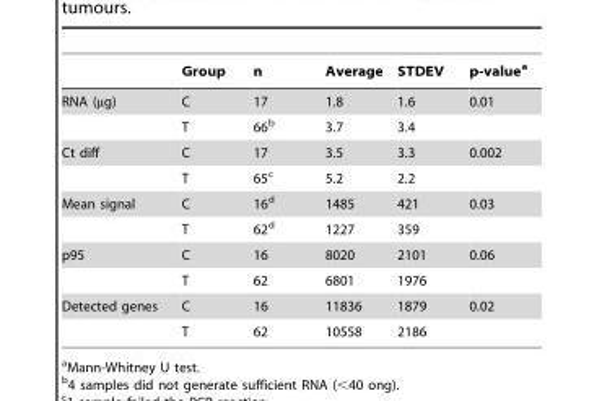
<table><thead><tr><td></td><td>Group</td><td>n</td><td>Average</td><td>STDEV</td><td>p-value<sup>a</sup></td></tr></thead><tbody><tr><td rowspan="2">RNA (µg)</td><td>C</td><td>17</td><td>1.8</td><td>1.6</td><td>0.01</td></tr><tr><td>T</td><td>66<sup>b</sup></td><td>3.7</td><td>3.4</td><td></td></tr><tr><td rowspan="2">Ct diff</td><td>C</td><td>17</td><td>3.5</td><td>3.3</td><td>0.002</td></tr><tr><td>T</td><td>65<sup>c</sup></td><td>5.2</td><td>2.2</td><td></td></tr><tr><td rowspan="2">Mean signal</td><td>C</td><td>16<sup>d</sup></td><td>1485</td><td>421</td><td>0.03</td></tr><tr><td>T</td><td>62<sup>d</sup></td><td>1227</td><td>359</td><td></td></tr><tr><td rowspan="2">p95</td><td>C</td><td>16</td><td>8020</td><td>2101</td><td>0.06</td></tr><tr><td>T</td><td>62</td><td>6801</td><td>1976</td><td></td></tr><tr><td rowspan="2">Detected genes</td><td>C</td><td>16</td><td>11836</td><td>1879</td><td>0.02</td></tr><tr><td>T</td><td>62</td><td>10558</td><td>2186</td><td></td></tr></tbody></table>